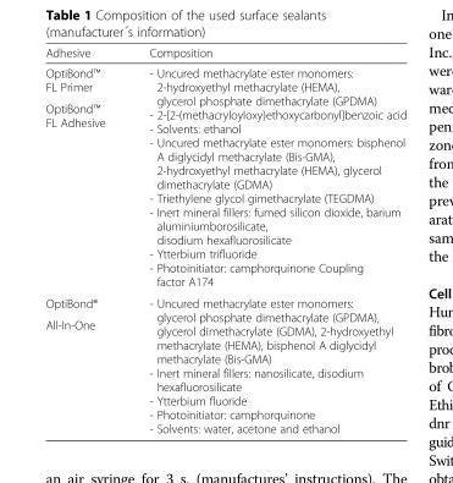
<table><thead><tr><td>Adhesive</td><td>Composition</td></tr></thead><tbody><tr><td>OptiBond™ FL Primer</td><td rowspan="2">- Uncured methacrylate ester monomers: 2-hydroxyethyl methacrylate (HEMA), glycerol phosphate dimethacrylate (GPDMA) - 2-[2-(methacryloyloxy)ethoxycarbonyl]benzoic acid - Solvents: ethanol - Uncured methacrylate ester monomers: bisphenol A diglycidyl methacrylate (Bis-GMA), 2-hydroxyethyl methacrylate (HEMA), glycerol dimethacrylate (GDMA) - Triethylene glycol gimethacrylate (TEGDMA) - Inert mineral fillers: fumed silicon dioxide, barium aluminiumborosilicate, disodium hexafluorosilicate - Ytterbium trifluoride - Photoinitiator: camphorquinone Coupling factor A174</td></tr><tr><td>OptiBond™ FL Adhesive</td></tr><tr><td>OptiBond®</td><td rowspan="2">- Uncured methacrylate ester monomers: glycerol phosphate dimethacrylate (GPDMA), glycerol dimethacrylate (GDMA), 2-hydroxyethyl methacrylate (HEMA), bisphenol A diglycidyl methacrylate (Bis-GMA) - Inert mineral fillers: nanosilicate, disodium hexafluorosilicate - Ytterbium fluoride - Photoinitiator: camphorquinone - Solvents: water, acetone and ethanol</td></tr><tr><td>All-In-One</td></tr></tbody></table>